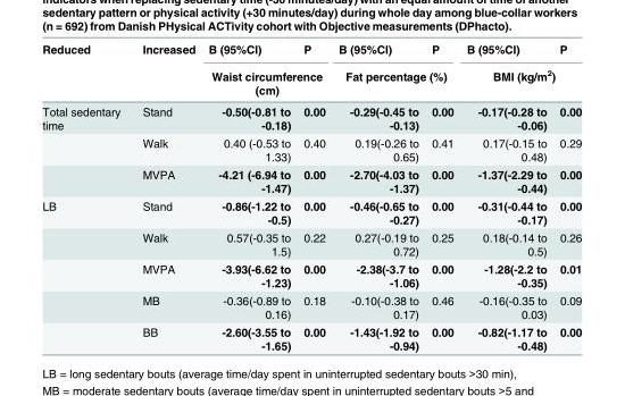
<table><thead><tr><td rowspan="2">Reduced</td><td rowspan="2">Increased</td><td>B (95%CI)</td><td>P</td><td>B (95%CI)</td><td>P</td><td>B (95%CI)</td><td>P</td></tr><tr><td colspan="2">Waist circumference (cm)</td><td colspan="2">Fat percentage (%)</td><td colspan="2">BMI (kg/m<sup>2</sup>)</td></tr></thead><tbody><tr><td rowspan="3">Total sedentary time</td><td>Stand</td><td>-0.50(-0.81 to -0.18)</td><td>0.00</td><td>-0.29(-0.45 to -0.13)</td><td>0.00</td><td>-0.17(-0.28 to -0.06)</td><td>0.00</td></tr><tr><td>Walk</td><td>0.40 (-0.53 to 1.33)</td><td>0.40</td><td>0.19(-0.26 to 0.65)</td><td>0.41</td><td>0.17(-0.15 to 0.48)</td><td>0.29</td></tr><tr><td>MVPA</td><td>-4.21 (-6.94 to -1.47)</td><td>0.00</td><td>-2.70(-4.03 to -1.37)</td><td>0.00</td><td>-1.37(-2.29 to -0.44)</td><td>0.00</td></tr><tr><td rowspan="5">LB</td><td>Stand</td><td>-0.86(-1.22 to -0.5)</td><td>0.00</td><td>-0.46(-0.65 to -0.27)</td><td>0.00</td><td>-0.31(-0.44 to -0.17)</td><td>0.00</td></tr><tr><td>Walk</td><td>0.57(-0.35 to 1.5)</td><td>0.22</td><td>0.27(-0.19 to 0.72)</td><td>0.25</td><td>0.18(-0.14 to 0.5)</td><td>0.26</td></tr><tr><td>MVPA</td><td>-3.93(-6.62 to -1.23)</td><td>0.00</td><td>-2.38(-3.7 to -1.06)</td><td>0.00</td><td>-1.28(-2.2 to -0.35)</td><td>0.01</td></tr><tr><td>MB</td><td>-0.36(-0.89 to 0.16)</td><td>0.18</td><td>-0.10(-0.38 to 0.17)</td><td>0.46</td><td>-0.16(-0.35 to 0.03)</td><td>0.09</td></tr><tr><td>BB</td><td>-2.60(-3.55 to -1.65)</td><td>0.00</td><td>-1.43(-1.92 to -0.94)</td><td>0.00</td><td>-0.82(-1.17 to -0.48)</td><td>0.00</td></tr></tbody></table>